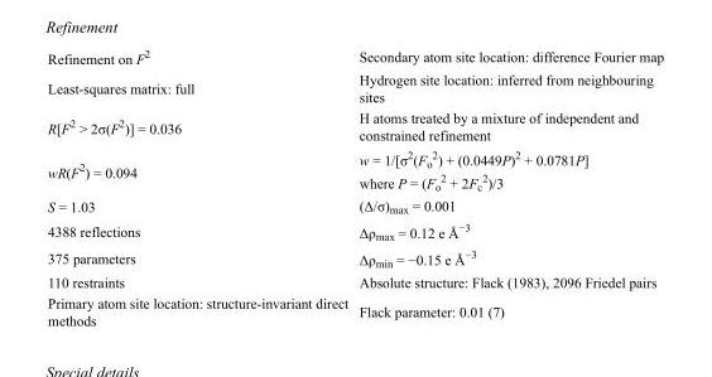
<table><tbody><tr><td>Refinement on F<sup>2</sup></td><td>Secondary atom site location: difference Fourier map</td></tr><tr><td>Least-squares matrix: full</td><td>Hydrogen site location: inferred from neighbouring sites</td></tr><tr><td>R[F<sup>2</sup> &gt; 2σ(F<sup>2</sup>)] = 0.036</td><td>H atoms treated by a mixture of independent and constrained refinement</td></tr><tr><td>wR(F<sup>2</sup>) = 0.094</td><td>w = 1/[σ<sup>2</sup>(F<sub>o</sub> <sup>2</sup>) + (0.0449P)<sup>2</sup> + 0.0781P] where P = (F<sub>o</sub> <sup>2</sup> + 2F<sub>c</sub> <sup>2</sup>)/3</td></tr><tr><td>S = 1.03</td><td>(Δ/σ)<sub>max</sub> = 0.001</td></tr><tr><td>4388 reflections</td><td>Δρ<sub>max</sub> = 0.12 e Å<sup>−3</sup></td></tr><tr><td>375 parameters</td><td>Δρ<sub>min</sub> = −0.15 e Å<sup>−3</sup></td></tr><tr><td>110 restraints</td><td>Absolute structure: Flack (1983), 2096 Friedel pairs</td></tr><tr><td>Primary atom site location: structure-invariant direct methods</td><td>Flack parameter: 0.01 (7)</td></tr></tbody></table>